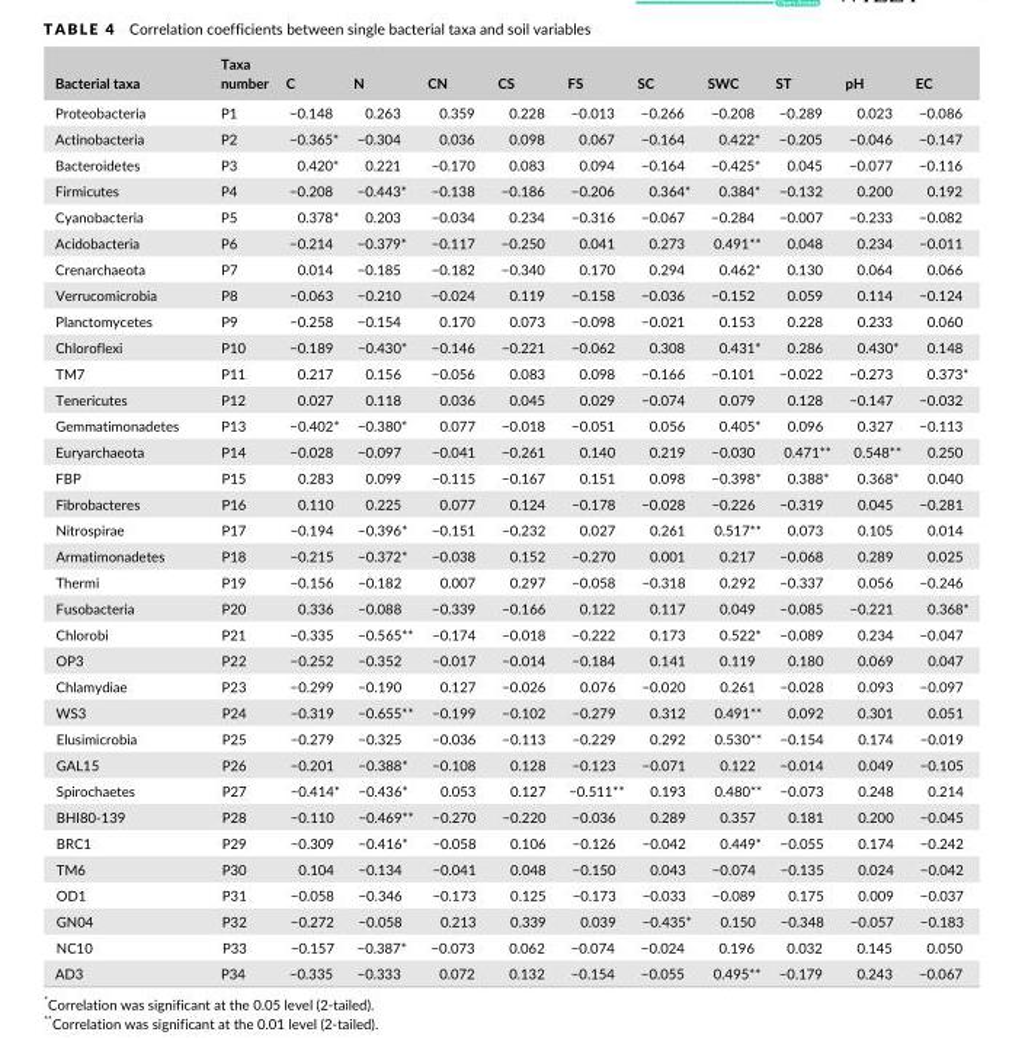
<table><thead><tr><td>Bacterial taxa</td><td>Taxa number</td><td>C</td><td>N</td><td>CN</td><td>CS</td><td>FS</td><td>SC</td><td>SWC</td><td>ST</td><td>pH</td><td>EC</td></tr></thead><tbody><tr><td>Proteobacteria</td><td>P1</td><td>−0.148</td><td>0.263</td><td>0.359</td><td>0.228</td><td>−0.013</td><td>−0.266</td><td>−0.208</td><td>−0.289</td><td>0.023</td><td>−0.086</td></tr><tr><td>Actinobacteria</td><td>P2</td><td>−0.365*</td><td>−0.304</td><td>0.036</td><td>0.098</td><td>0.067</td><td>−0.164</td><td>0.422*</td><td>−0.205</td><td>−0.046</td><td>−0.147</td></tr><tr><td>Bacteroidetes</td><td>P3</td><td>0.420*</td><td>0.221</td><td>−0.170</td><td>0.083</td><td>0.094</td><td>−0.164</td><td>−0.425*</td><td>0.045</td><td>−0.077</td><td>−0.116</td></tr><tr><td>Firmicutes</td><td>P4</td><td>−0.208</td><td>−0.443*</td><td>−0.138</td><td>−0.186</td><td>−0.206</td><td>0.364*</td><td>0.384*</td><td>−0.132</td><td>0.200</td><td>0.192</td></tr><tr><td>Cyanobacteria</td><td>P5</td><td>0.378*</td><td>0.203</td><td>−0.034</td><td>0.234</td><td>−0.316</td><td>−0.067</td><td>−0.284</td><td>−0.007</td><td>−0.233</td><td>−0.082</td></tr><tr><td>Acidobacteria</td><td>P6</td><td>−0.214</td><td>−0.379*</td><td>−0.117</td><td>−0.250</td><td>0.041</td><td>0.273</td><td>0.491**</td><td>0.048</td><td>0.234</td><td>−0.011</td></tr><tr><td>Crenarchaeota</td><td>P7</td><td>0.014</td><td>−0.185</td><td>−0.182</td><td>−0.340</td><td>0.170</td><td>0.294</td><td>0.462*</td><td>0.130</td><td>0.064</td><td>0.066</td></tr><tr><td>Verrucomicrobia</td><td>P8</td><td>−0.063</td><td>−0.210</td><td>−0.024</td><td>0.119</td><td>−0.158</td><td>−0.036</td><td>−0.152</td><td>0.059</td><td>0.114</td><td>−0.124</td></tr><tr><td>Planctomycetes</td><td>P9</td><td>−0.258</td><td>−0.154</td><td>0.170</td><td>0.073</td><td>−0.098</td><td>−0.021</td><td>0.153</td><td>0.228</td><td>0.233</td><td>0.060</td></tr><tr><td>Chloroflexi</td><td>P10</td><td>−0.189</td><td>−0.430*</td><td>−0.146</td><td>−0.221</td><td>−0.062</td><td>0.308</td><td>0.431*</td><td>0.286</td><td>0.430*</td><td>0.148</td></tr><tr><td>TM7</td><td>P11</td><td>0.217</td><td>0.156</td><td>−0.056</td><td>0.083</td><td>0.098</td><td>−0.166</td><td>−0.101</td><td>−0.022</td><td>−0.273</td><td>0.373*</td></tr><tr><td>Tenericutes</td><td>P12</td><td>0.027</td><td>0.118</td><td>0.036</td><td>0.045</td><td>0.029</td><td>−0.074</td><td>0.079</td><td>0.128</td><td>−0.147</td><td>−0.032</td></tr><tr><td>Gemmatimonadetes</td><td>P13</td><td>−0.402*</td><td>−0.380*</td><td>0.077</td><td>−0.018</td><td>−0.051</td><td>0.056</td><td>0.405*</td><td>0.096</td><td>0.327</td><td>−0.113</td></tr><tr><td>Euryarchaeota</td><td>P14</td><td>−0.028</td><td>−0.097</td><td>−0.041</td><td>−0.261</td><td>0.140</td><td>0.219</td><td>−0.030</td><td>0.471**</td><td>0.548**</td><td>0.250</td></tr><tr><td>FBP</td><td>P15</td><td>0.283</td><td>0.099</td><td>−0.115</td><td>−0.167</td><td>0.151</td><td>0.098</td><td>−0.398*</td><td>0.388*</td><td>0.368*</td><td>0.040</td></tr><tr><td>Fibrobacteres</td><td>P16</td><td>0.110</td><td>0.225</td><td>0.077</td><td>0.124</td><td>−0.178</td><td>−0.028</td><td>−0.226</td><td>−0.319</td><td>0.045</td><td>−0.281</td></tr><tr><td>Nitrospirae</td><td>P17</td><td>−0.194</td><td>−0.396*</td><td>−0.151</td><td>−0.232</td><td>0.027</td><td>0.261</td><td>0.517**</td><td>0.073</td><td>0.105</td><td>0.014</td></tr><tr><td>Armatimonadetes</td><td>P18</td><td>−0.215</td><td>−0.372*</td><td>−0.038</td><td>0.152</td><td>−0.270</td><td>0.001</td><td>0.217</td><td>−0.068</td><td>0.289</td><td>0.025</td></tr><tr><td>Thermi</td><td>P19</td><td>−0.156</td><td>−0.182</td><td>0.007</td><td>0.297</td><td>−0.058</td><td>−0.318</td><td>0.292</td><td>−0.337</td><td>0.056</td><td>−0.246</td></tr><tr><td>Fusobacteria</td><td>P20</td><td>0.336</td><td>−0.088</td><td>−0.339</td><td>−0.166</td><td>0.122</td><td>0.117</td><td>0.049</td><td>−0.085</td><td>−0.221</td><td>0.368*</td></tr><tr><td>Chlorobi</td><td>P21</td><td>−0.335</td><td>−0.565**</td><td>−0.174</td><td>−0.018</td><td>−0.222</td><td>0.173</td><td>0.522*</td><td>−0.089</td><td>0.234</td><td>−0.047</td></tr><tr><td>OP3</td><td>P22</td><td>−0.252</td><td>−0.352</td><td>−0.017</td><td>−0.014</td><td>−0.184</td><td>0.141</td><td>0.119</td><td>0.180</td><td>0.069</td><td>0.047</td></tr><tr><td>Chlamydiae</td><td>P23</td><td>−0.299</td><td>−0.190</td><td>0.127</td><td>−0.026</td><td>0.076</td><td>−0.020</td><td>0.261</td><td>−0.028</td><td>0.093</td><td>−0.097</td></tr><tr><td>WS3</td><td>P24</td><td>−0.319</td><td>−0.655**</td><td>−0.199</td><td>−0.102</td><td>−0.279</td><td>0.312</td><td>0.491**</td><td>0.092</td><td>0.301</td><td>0.051</td></tr><tr><td>Elusimicrobia</td><td>P25</td><td>−0.279</td><td>−0.325</td><td>−0.036</td><td>−0.113</td><td>−0.229</td><td>0.292</td><td>0.530**</td><td>−0.154</td><td>0.174</td><td>−0.019</td></tr><tr><td>GAL15</td><td>P26</td><td>−0.201</td><td>−0.388*</td><td>−0.108</td><td>0.128</td><td>−0.123</td><td>−0.071</td><td>0.122</td><td>−0.014</td><td>0.049</td><td>−0.105</td></tr><tr><td>Spirochaetes</td><td>P27</td><td>−0.414*</td><td>−0.436*</td><td>0.053</td><td>0.127</td><td>−0.511**</td><td>0.193</td><td>0.480**</td><td>−0.073</td><td>0.248</td><td>0.214</td></tr><tr><td>BHI80- 139</td><td>P28</td><td>−0.110</td><td>−0.469**</td><td>−0.270</td><td>−0.220</td><td>−0.036</td><td>0.289</td><td>0.357</td><td>0.181</td><td>0.200</td><td>−0.045</td></tr><tr><td>BRC1</td><td>P29</td><td>−0.309</td><td>−0.416*</td><td>−0.058</td><td>0.106</td><td>−0.126</td><td>−0.042</td><td>0.449*</td><td>−0.055</td><td>0.174</td><td>−0.242</td></tr><tr><td>TM6</td><td>P30</td><td>0.104</td><td>−0.134</td><td>−0.041</td><td>0.048</td><td>−0.150</td><td>0.043</td><td>−0.074</td><td>−0.135</td><td>0.024</td><td>−0.042</td></tr><tr><td>OD1</td><td>P31</td><td>−0.058</td><td>−0.346</td><td>−0.173</td><td>0.125</td><td>−0.173</td><td>−0.033</td><td>−0.089</td><td>0.175</td><td>0.009</td><td>−0.037</td></tr><tr><td>GN04</td><td>P32</td><td>−0.272</td><td>−0.058</td><td>0.213</td><td>0.339</td><td>0.039</td><td>−0.435*</td><td>0.150</td><td>−0.348</td><td>−0.057</td><td>−0.183</td></tr><tr><td>NC10</td><td>P33</td><td>−0.157</td><td>−0.387*</td><td>−0.073</td><td>0.062</td><td>−0.074</td><td>−0.024</td><td>0.196</td><td>0.032</td><td>0.145</td><td>0.050</td></tr><tr><td>AD3</td><td>P34</td><td>−0.335</td><td>−0.333</td><td>0.072</td><td>0.132</td><td>−0.154</td><td>−0.055</td><td>0.495**</td><td>−0.179</td><td>0.243</td><td>−0.067</td></tr></tbody></table>